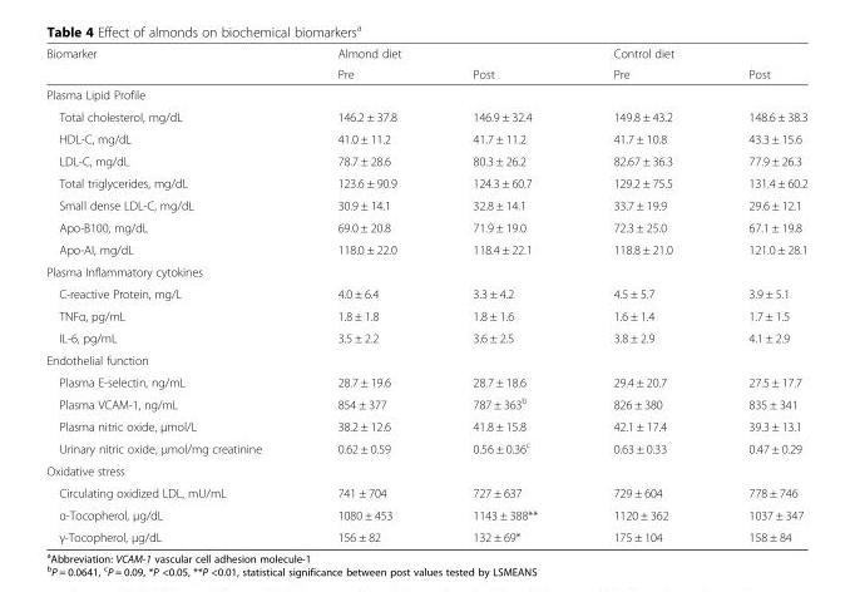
<table><thead><tr><td rowspan="2">Biomarker</td><td colspan="2">Almond diet</td><td colspan="2">Control diet</td></tr><tr><td>Pre</td><td>Post</td><td>Pre</td><td>Post</td></tr></thead><tbody><tr><td colspan="5">Plasma Lipid Profile</td></tr><tr><td>Total cholesterol, mg/dL</td><td>146.2 ± 37.8</td><td>146.9 ± 32.4</td><td>149.8 ± 43.2</td><td>148.6 ± 38.3</td></tr><tr><td>HDL-C, mg/dL</td><td>41.0 ± 11.2</td><td>41.7 ± 11.2</td><td>41.7 ± 10.8</td><td>43.3 ± 15.6</td></tr><tr><td>LDL-C, mg/dL</td><td>78.7 ± 28.6</td><td>80.3 ± 26.2</td><td>82.67 ± 36.3</td><td>77.9 ± 26.3</td></tr><tr><td>Total triglycerides, mg/dL</td><td>123.6 ± 90.9</td><td>124.3 ± 60.7</td><td>129.2 ± 75.5</td><td>131.4 ± 60.2</td></tr><tr><td>Small dense LDL-C, mg/dL</td><td>30.9 ± 14.1</td><td>32.8 ± 14.1</td><td>33.7 ± 19.9</td><td>29.6 ± 12.1</td></tr><tr><td>Apo-B100, mg/dL</td><td>69.0 ± 20.8</td><td>71.9 ± 19.0</td><td>72.3 ± 25.0</td><td>67.1 ± 19.8</td></tr><tr><td>Apo-AI, mg/dL</td><td>118.0 ± 22.0</td><td>118.4 ± 22.1</td><td>118.8 ± 21.0</td><td>121.0 ± 28.1</td></tr><tr><td colspan="5">Plasma Inflammatory cytokines</td></tr><tr><td>C-reactive Protein, mg/L</td><td>4.0 ± 6.4</td><td>3.3 ± 4.2</td><td>4.5 ± 5.7</td><td>3.9 ± 5.1</td></tr><tr><td>TNFα, pg/mL</td><td>1.8 ± 1.8</td><td>1.8 ± 1.6</td><td>1.6 ± 1.4</td><td>1.7 ± 1.5</td></tr><tr><td>IL-6, pg/mL</td><td>3.5 ± 2.2</td><td>3.6 ± 2.5</td><td>3.8 ± 2.9</td><td>4.1 ± 2.9</td></tr><tr><td colspan="5">Endothelial function</td></tr><tr><td>Plasma E-selectin, ng/mL</td><td>28.7 ± 19.6</td><td>28.7 ± 18.6</td><td>29.4 ± 20.7</td><td>27.5 ± 17.7</td></tr><tr><td>Plasma VCAM-1, ng/mL</td><td>854 ± 377</td><td>787 ± 363<sup>b</sup></td><td>826 ± 380</td><td>835 ± 341</td></tr><tr><td>Plasma nitric oxide, μmol/L</td><td>38.2 ± 12.6</td><td>41.8 ± 15.8</td><td>42.1 ± 17.4</td><td>39.3 ± 13.1</td></tr><tr><td>Urinary nitric oxide, μmol/mg creatinine</td><td>0.62 ± 0.59</td><td>0.56 ± 0.36<sup>c</sup></td><td>0.63 ± 0.33</td><td>0.47 ± 0.29</td></tr><tr><td colspan="5">Oxidative stress</td></tr><tr><td>Circulating oxidized LDL, mU/mL</td><td>741 ± 704</td><td>727 ± 637</td><td>729 ± 604</td><td>778 ± 746</td></tr><tr><td>α-Tocopherol, μg/dL</td><td>1080 ± 453</td><td>1143 ± 388**</td><td>1120 ± 362</td><td>1037 ± 347</td></tr><tr><td>γ-Tocopherol, μg/dL</td><td>156 ± 82</td><td>132 ± 69*</td><td>175 ± 104</td><td>158 ± 84</td></tr></tbody></table>